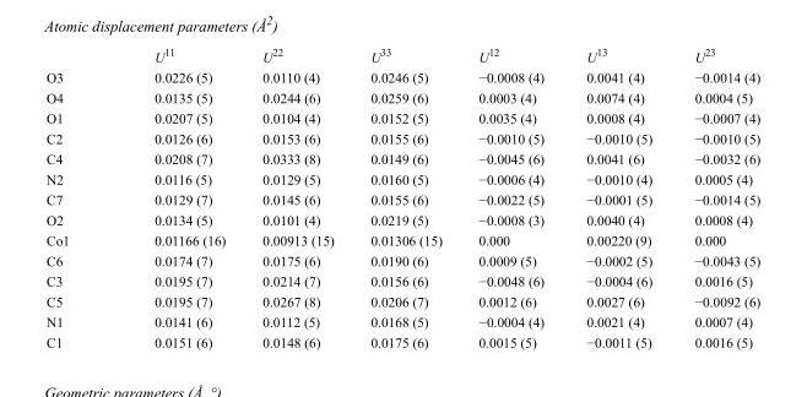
<table><thead><tr><td></td><td>U<sup>11</sup></td><td>U<sup>22</sup></td><td>U<sup>33</sup></td><td>U<sup>12</sup></td><td>U<sup>13</sup></td><td>U<sup>23</sup></td></tr></thead><tbody><tr><td>O3</td><td>0.0226 (5)</td><td>0.0110 (4)</td><td>0.0246 (5)</td><td>−0.0008 (4)</td><td>0.0041 (4)</td><td>−0.0014 (4)</td></tr><tr><td>O4</td><td>0.0135 (5)</td><td>0.0244 (6)</td><td>0.0259 (6)</td><td>0.0003 (4)</td><td>0.0074 (4)</td><td>0.0004 (5)</td></tr><tr><td>O1</td><td>0.0207 (5)</td><td>0.0104 (4)</td><td>0.0152 (5)</td><td>0.0035 (4)</td><td>0.0008 (4)</td><td>−0.0007 (4)</td></tr><tr><td>C2</td><td>0.0126 (6)</td><td>0.0153 (6)</td><td>0.0155 (6)</td><td>−0.0010 (5)</td><td>−0.0010 (5)</td><td>−0.0010 (5)</td></tr><tr><td>C4</td><td>0.0208 (7)</td><td>0.0333 (8)</td><td>0.0149 (6)</td><td>−0.0045 (6)</td><td>0.0041 (6)</td><td>−0.0032 (6)</td></tr><tr><td>N2</td><td>0.0116 (5)</td><td>0.0129 (5)</td><td>0.0160 (5)</td><td>−0.0006 (4)</td><td>−0.0010 (4)</td><td>0.0005 (4)</td></tr><tr><td>C7</td><td>0.0129 (7)</td><td>0.0145 (6)</td><td>0.0155 (6)</td><td>−0.0022 (5)</td><td>−0.0001 (5)</td><td>−0.0014 (5)</td></tr><tr><td>O2</td><td>0.0134 (5)</td><td>0.0101 (4)</td><td>0.0219 (5)</td><td>−0.0008 (3)</td><td>0.0040 (4)</td><td>0.0008 (4)</td></tr><tr><td>Co1</td><td>0.01166 (16)</td><td>0.00913 (15)</td><td>0.01306 (15)</td><td>0.000</td><td>0.00220 (9)</td><td>0.000</td></tr><tr><td>C6</td><td>0.0174 (7)</td><td>0.0175 (6)</td><td>0.0190 (6)</td><td>0.0009 (5)</td><td>−0.0002 (5)</td><td>−0.0043 (5)</td></tr><tr><td>C3</td><td>0.0195 (7)</td><td>0.0214 (7)</td><td>0.0156 (6)</td><td>−0.0048 (6)</td><td>−0.0004 (6)</td><td>0.0016 (5)</td></tr><tr><td>C5</td><td>0.0195 (7)</td><td>0.0267 (8)</td><td>0.0206 (7)</td><td>0.0012 (6)</td><td>0.0027 (6)</td><td>−0.0092 (6)</td></tr><tr><td>N1</td><td>0.0141 (6)</td><td>0.0112 (5)</td><td>0.0168 (5)</td><td>−0.0004 (4)</td><td>0.0021 (4)</td><td>0.0007 (4)</td></tr><tr><td>C1</td><td>0.0151 (6)</td><td>0.0148 (6)</td><td>0.0175 (6)</td><td>0.0015 (5)</td><td>−0.0011 (5)</td><td>0.0016 (5)</td></tr></tbody></table>